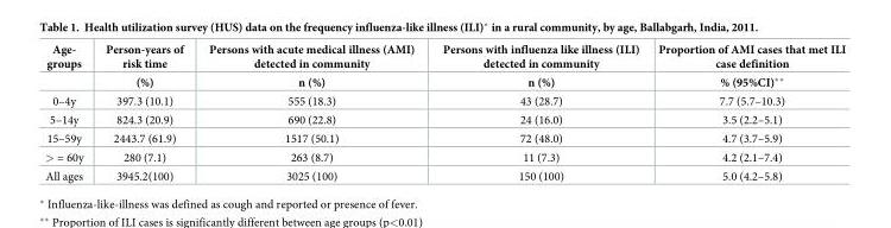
<table><thead><tr><td rowspan="2">Age- groups</td><td rowspan="2">Person-years of risk time (%)</td><td rowspan="2">Persons with acute medical illness (AMI) detected in community n (%)</td><td rowspan="2">Persons with influenza like illness (ILI) detected in community n (%)</td><td rowspan="2">Proportion of AMI cases that met ILI case definition % (95%CI)**</td></tr><tr></tr></thead><tbody><tr><td>0–4y</td><td>397.3 (10.1)</td><td>555 (18.3)</td><td>43 (28.7)</td><td>7.7 (5.7–10.3)</td></tr><tr><td>5–14y</td><td>824.3 (20.9)</td><td>690 (22.8)</td><td>24 (16.0)</td><td>3.5 (2.2–5.1)</td></tr><tr><td>15–59y</td><td>2443.7 (61.9)</td><td>1517 (50.1)</td><td>72 (48.0)</td><td>4.7 (3.7–5.9)</td></tr><tr><td>&gt; = 60y</td><td>280 (7.1)</td><td>263 (8.7)</td><td>11 (7.3)</td><td>4.2 (2.1–7.4)</td></tr><tr><td>All ages</td><td>3945.2(100)</td><td>3025 (100)</td><td>150 (100)</td><td>5.0 (4.2–5.8)</td></tr></tbody></table>